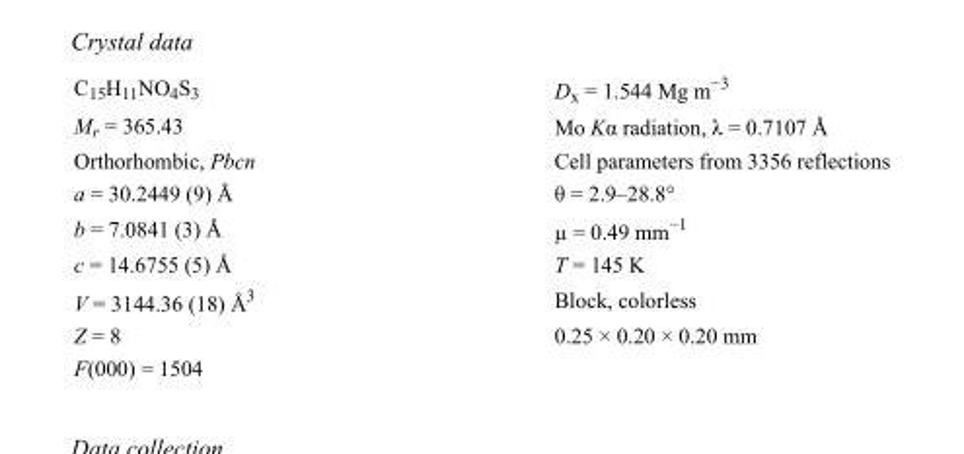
<table><tbody><tr><td>C<sub>15</sub>H<sub>11</sub>NO<sub>4</sub>S<sub>3</sub></td><td>D<sub>x</sub> = 1.544 Mg m<sup>−3</sup></td></tr><tr><td>M<sub>r</sub> = 365.43</td><td>Mo Kα radiation, λ = 0.7107 Å</td></tr><tr><td>Orthorhombic, Pbcn</td><td>Cell parameters from 3356 reflections</td></tr><tr><td>a = 30.2449 (9) Å</td><td>θ = 2.9–28.8°</td></tr><tr><td>b = 7.0841 (3) Å</td><td>µ = 0.49 mm<sup>−1</sup></td></tr><tr><td>c = 14.6755 (5) Å</td><td>T = 145 K</td></tr><tr><td>V = 3144.36 (18) Å<sup>3</sup></td><td>Block, colorless</td></tr><tr><td>Z = 8</td><td>0.25 × 0.20 × 0.20 mm</td></tr><tr><td>F(000) = 1504</td><td></td></tr></tbody></table>